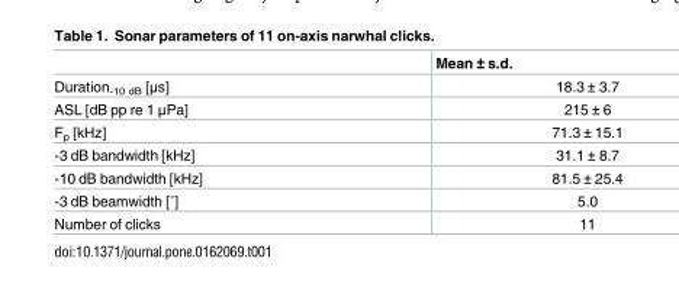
<table><thead><tr><td></td><td>Mean ± s.d.</td></tr></thead><tbody><tr><td>Duration<sub>-10 dB</sub> [μs]</td><td>18.3 ± 3.7</td></tr><tr><td>ASL [dB pp re 1 μPa]</td><td>215 ± 6</td></tr><tr><td>F<sub>p</sub> [kHz]</td><td>71.3 ± 15.1</td></tr><tr><td>-3 dB bandwidth [kHz]</td><td>31.1 ± 8.7</td></tr><tr><td>-10 dB bandwidth [kHz]</td><td>81.5 ± 25.4</td></tr><tr><td>-3 dB beamwidth [˚]</td><td>5.0</td></tr><tr><td>Number of clicks</td><td>11</td></tr></tbody></table>